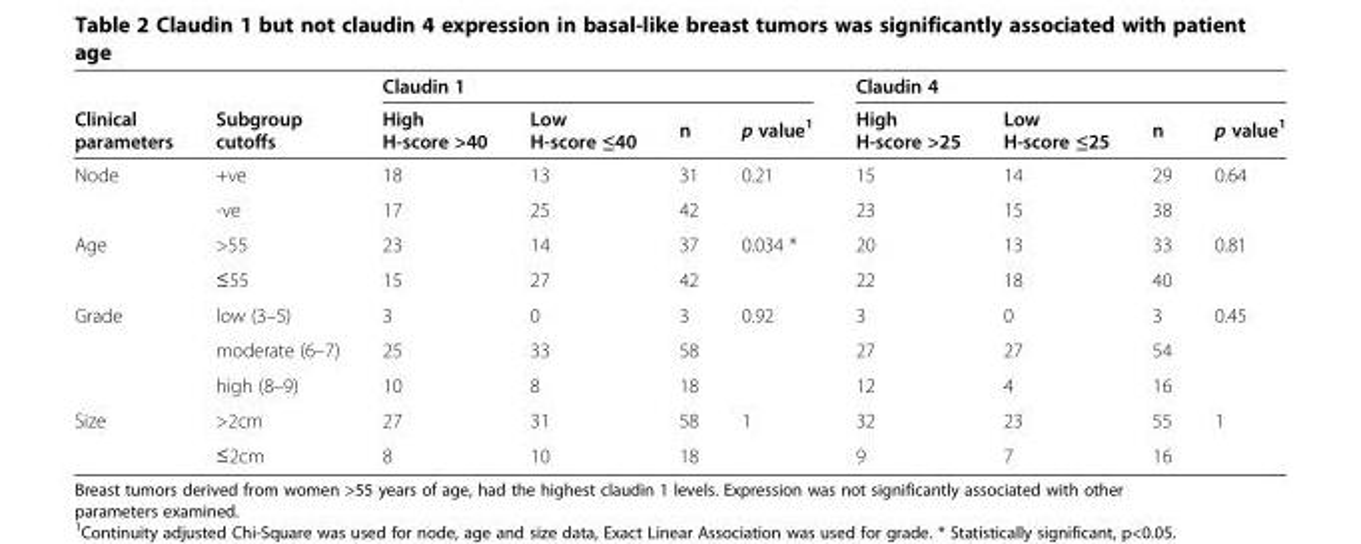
<table><thead><tr><td rowspan="2">Clinical parameters</td><td rowspan="2">Subgroup cutoffs</td><td colspan="4">Claudin 1</td><td colspan="4">Claudin 4</td></tr><tr><td>High H-score &gt;40</td><td>Low H-score ≤40</td><td>n</td><td>p value<sup>1</sup></td><td>High H-score &gt;25</td><td>Low H-score ≤25</td><td>n</td><td>p value<sup>1</sup></td></tr></thead><tbody><tr><td rowspan="2">Node</td><td>+ve</td><td>18</td><td>13</td><td>31</td><td>0.21</td><td>15</td><td>14</td><td>29</td><td>0.64</td></tr><tr><td>-ve</td><td>17</td><td>25</td><td>42</td><td></td><td>23</td><td>15</td><td>38</td><td></td></tr><tr><td rowspan="2">Age</td><td>&gt;55</td><td>23</td><td>14</td><td>37</td><td>0.034 *</td><td>20</td><td>13</td><td>33</td><td>0.81</td></tr><tr><td>≤55</td><td>15</td><td>27</td><td>42</td><td></td><td>22</td><td>18</td><td>40</td><td></td></tr><tr><td rowspan="3">Grade</td><td>low (3–5)</td><td>3</td><td>0</td><td>3</td><td>0.92</td><td>3</td><td>0</td><td>3</td><td>0.45</td></tr><tr><td>moderate (6–7)</td><td>25</td><td>33</td><td>58</td><td></td><td>27</td><td>27</td><td>54</td><td></td></tr><tr><td>high (8–9)</td><td>10</td><td>8</td><td>18</td><td></td><td>12</td><td>4</td><td>16</td><td></td></tr><tr><td rowspan="2">Size</td><td>&gt;2cm</td><td>27</td><td>31</td><td>58</td><td>1</td><td>32</td><td>23</td><td>55</td><td>1</td></tr><tr><td>≤2cm</td><td>8</td><td>10</td><td>18</td><td></td><td>9</td><td>7</td><td>16</td><td></td></tr></tbody></table>